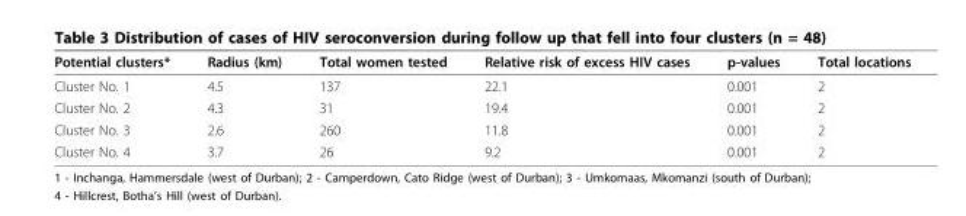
<table><thead><tr><td>Potential clusters*</td><td>Radius (km)</td><td>Total women tested</td><td>Relative risk of excess HIV cases</td><td>p-values</td><td>Total locations</td></tr></thead><tbody><tr><td>Cluster No. 1</td><td>4.5</td><td>137</td><td>22.1</td><td>0.001</td><td>2</td></tr><tr><td>Cluster No. 2</td><td>4.3</td><td>31</td><td>19.4</td><td>0.001</td><td>2</td></tr><tr><td>Cluster No. 3</td><td>2.6</td><td>260</td><td>11.8</td><td>0.001</td><td>2</td></tr><tr><td>Cluster No. 4</td><td>3.7</td><td>26</td><td>9.2</td><td>0.001</td><td>2</td></tr></tbody></table>